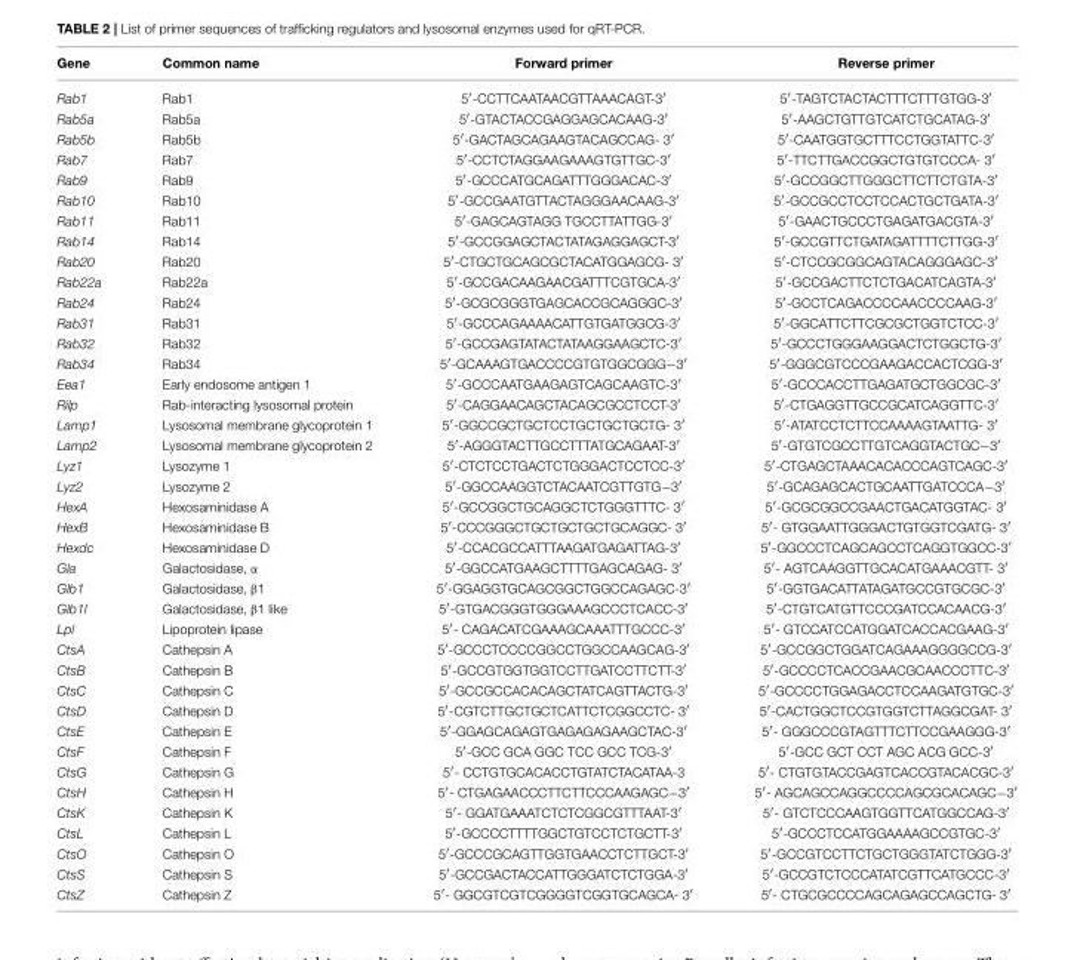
<table><thead><tr><td>Gene</td><td>Common name</td><td>Forward primer</td><td>Reverse primer</td></tr></thead><tbody><tr><td>Rab1</td><td>Rab1</td><td>5′-CCTTCAATAACGTTAAACAGT-3′</td><td>5′-TAGTCTACTACTTTCTTTGTGG-3′</td></tr><tr><td>Rab5a</td><td>Rab5a</td><td>5′-GTACTACCGAGGAGCACAAG-3′</td><td>5′-AAGCTGTTGTCATCTGCATAG-3′</td></tr><tr><td>Rab5b</td><td>Rab5b</td><td>5′-GACTAGCAGAAGTACAGCCAG- 3′</td><td>5′-CAATGGTGCTTTCCTGGTATTC-3′</td></tr><tr><td>Rab7</td><td>Rab7</td><td>5′-CCTCTAGGAAGAAAGTGTTGC-3′</td><td>5′-TTCTTGACCGGCTGTGTCCCA- 3′</td></tr><tr><td>Rab9</td><td>Rab9</td><td>5′-GCCCATGCAGATTTGGGACAC-3′</td><td>5′-GCCGGCTTGGGCTTCTTCTGTA-3′</td></tr><tr><td>Rab10</td><td>Rab10</td><td>5′-GCCGAATGTTACTAGGGAACAAG-3′</td><td>5′-GCCGCCTCCTCCACTGCTGATA-3′</td></tr><tr><td>Rab11</td><td>Rab11</td><td>5′-GAGCAGTAGG TGCCTTATTGG-3′</td><td>5′-GAACTGCCCTGAGATGACGTA-3′</td></tr><tr><td>Rab14</td><td>Rab14</td><td>5′-GCCGGAGCTACTATAGAGGAGCT-3′</td><td>5′-GCCGTTCTGATAGATTTTCTTGG-3′</td></tr><tr><td>Rab20</td><td>Rab20</td><td>5′-CTGCTGCAGCGCTACATGGAGCG- 3′</td><td>5′-CTCCGCGGCAGTACAGGGAGC-3′</td></tr><tr><td>Rab22a</td><td>Rab22a</td><td>5′-GCCGACAAGAACGATTTCGTGCA-3′</td><td>5′-GCCGACTTCTCTGACATCAGTA-3′</td></tr><tr><td>Rab24</td><td>Rab24</td><td>5′-GCGCGGGTGAGCACCGCAGGGC-3′</td><td>5′-GCCTCAGACCCCAACCCCAAG-3′</td></tr><tr><td>Rab31</td><td>Rab31</td><td>5′-GCCCAGAAAACATTGTGATGGCG-3′</td><td>5′-GGCATTCTTCGCGCTGGTCTCC-3′</td></tr><tr><td>Rab32</td><td>Rab32</td><td>5′-GCCGAGTATACTATAAGGAAGCTC-3′</td><td>5′-GCCCTGGGAAGGACTCTGGCTG-3′</td></tr><tr><td>Rab34</td><td>Rab34</td><td>5′-GCAAAGTGACCCCGTGTGGCGGG−3′</td><td>5′-GGGCGTCCCGAAGACCACTCGG-3′</td></tr><tr><td>Eea1</td><td>Early endosome antigen 1</td><td>5′-GCCCAATGAAGAGTCAGCAAGTC-3′</td><td>5′-GCCCACCTTGAGATGCTGGCGC-3′</td></tr><tr><td>Rilp</td><td>Rab-interacting lysosomal protein</td><td>5′-CAGGAACAGCTACAGCGCCTCCT-3′</td><td>5′-CTGAGGTTGCCGCATCAGGTTC-3′</td></tr><tr><td>Lamp1</td><td>Lysosomal membrane glycoprotein 1</td><td>5′-GGCCGCTGCTCCTGCTGCTGCTG- 3′</td><td>5′-ATATCCTCTTCCAAAAGTAATTG- 3′</td></tr><tr><td>Lamp2</td><td>Lysosomal membrane glycoprotein 2</td><td>5′-AGGGTACTTGCCTTTATGCAGAAT-3′</td><td>5′-GTGTCGCCTTGTCAGGTACTGC−3′</td></tr><tr><td>Lyz1</td><td>Lysozyme 1</td><td>5′-CTCTCCTGACTCTGGGACTCCTCC-3′</td><td>5′-CTGAGCTAAACACACCCAGTCAGC-3′</td></tr><tr><td>Lyz2</td><td>Lysozyme 2</td><td>5′-GGCCAAGGTCTACAATCGTTGTG−3′</td><td>5′-GCAGAGCACTGCAATTGATCCCA−3′</td></tr><tr><td>HexA</td><td>Hexosaminidase A</td><td>5′-GCCGGCTGCAGGCTCTGGGTTTC- 3′</td><td>5′-GCGCGGCCGAACTGACATGGTAC- 3′</td></tr><tr><td>HexB</td><td>Hexosaminidase B</td><td>5′-CCCGGGCTGCTGCTGCTGCAGGC- 3′</td><td>5′- GTGGAATTGGGACTGTGGTCGATG- 3′</td></tr><tr><td>Hexdc</td><td>Hexosaminidase D</td><td>5′-CCACGCCATTTAAGATGAGATTAG-3′</td><td>5′-GGCCCTCAGCAGCCTCAGGTGGCC-3′</td></tr><tr><td>Gla</td><td>Galactosidase, α</td><td>5′-GGCCATGAAGCTTTTGAGCAGAG- 3′</td><td>5′- AGTCAAGGTTGCACATGAAACGTT- 3′</td></tr><tr><td>Glb1</td><td>Galactosidase, β1</td><td>5′-GGAGGTGCAGCGGCTGGCCAGAGC-3′</td><td>5′-GGTGACATTATAGATGCCGTGCGC-3′</td></tr><tr><td>Glb1l</td><td>Galactosidase, β1 like</td><td>5′-GTGACGGGTGGGAAAGCCCTCACC-3′</td><td>5′-CTGTCATGTTCCCGATCCACAACG-3′</td></tr><tr><td>Lpl</td><td>Lipoprotein lipase</td><td>5′- CAGACATCGAAAGCAAATTTGCCC-3′</td><td>5′- GTCCATCCATGGATCACCACGAAG-3′</td></tr><tr><td>CtsA</td><td>Cathepsin A</td><td>5′-GCCCTCCCCGGCCTGGCCAAGCAG-3′</td><td>5′-GCCGGCTGGATCAGAAAGGGGCCG-3′</td></tr><tr><td>CtsB</td><td>Cathepsin B</td><td>5′-GCCGTGGTGGTCCTTGATCCTTCTT-3′</td><td>5′-GCCCCTCACCGAACGCAACCCTTC-3′</td></tr><tr><td>CtsC</td><td>Cathepsin C</td><td>5′-GCCGCCACACAGCTATCAGTTACTG-3′</td><td>5′-GCCCCTGGAGACCTCCAAGATGTGC-3′</td></tr><tr><td>CtsD</td><td>Cathepsin D</td><td>5′-CGTCTTGCTGCTCATTCTCGGCCTC- 3′</td><td>5′-CACTGGCTCCGTGGTCTTAGGCGAT- 3′</td></tr><tr><td>CtsE</td><td>Cathepsin E</td><td>5′-GGAGCAGAGTGAGAGAGAAGCTAC-3′</td><td>5′- GGGCCCGTAGTTTCTTCCGAAGGG-3′</td></tr><tr><td>CtsF</td><td>Cathepsin F</td><td>5′-GCC GCA GGC TCC GCC TCG-3′</td><td>5′-GCC GCT CCT AGC ACG GCC-3′</td></tr><tr><td>CtsG</td><td>Cathepsin G</td><td>5′- CCTGTGCACACCTGTATCTACATAA-3</td><td>5′- CTGTGTACCGAGTCACCGTACACGC-3′</td></tr><tr><td>CtsH</td><td>Cathepsin H</td><td>5′- CTGAGAACCCTTCTTCCCAAGAGC−3′</td><td>5′- AGCAGCCAGGCCCCAGCGCACAGC−3′</td></tr><tr><td>CtsK</td><td>Cathepsin K</td><td>5′- GGATGAAATCTCTCGGCGTTTAAT-3′</td><td>5′- GTCTCCCAAGTGGTTCATGGCCAG-3′</td></tr><tr><td>CtsL</td><td>Cathepsin L</td><td>5′-GCCCCTTTTGGCTGTCCTCTGCTT-3′</td><td>5′-GCCCTCCATGGAAAAGCCGTGC-3′</td></tr><tr><td>CtsO</td><td>Cathepsin O</td><td>5′-GCCCGCAGTTGGTGAACCTCTTGCT-3′</td><td>5′-GCCGTCCTTCTGCTGGGTATCTGGG-3′</td></tr><tr><td>CtsS</td><td>Cathepsin S</td><td>5′-GCCGACTACCATTGGGATCTCTGGA-3′</td><td>5′-GCCGTCTCCCATATCGTTCATGCCC-3′</td></tr><tr><td>CtsZ</td><td>Cathepsin Z</td><td>5′- GGCGTCGTCGGGGTCGGTGCAGCA- 3′</td><td>5′- CTGCGCCCCAGCAGAGCCAGCTG- 3′</td></tr></tbody></table>